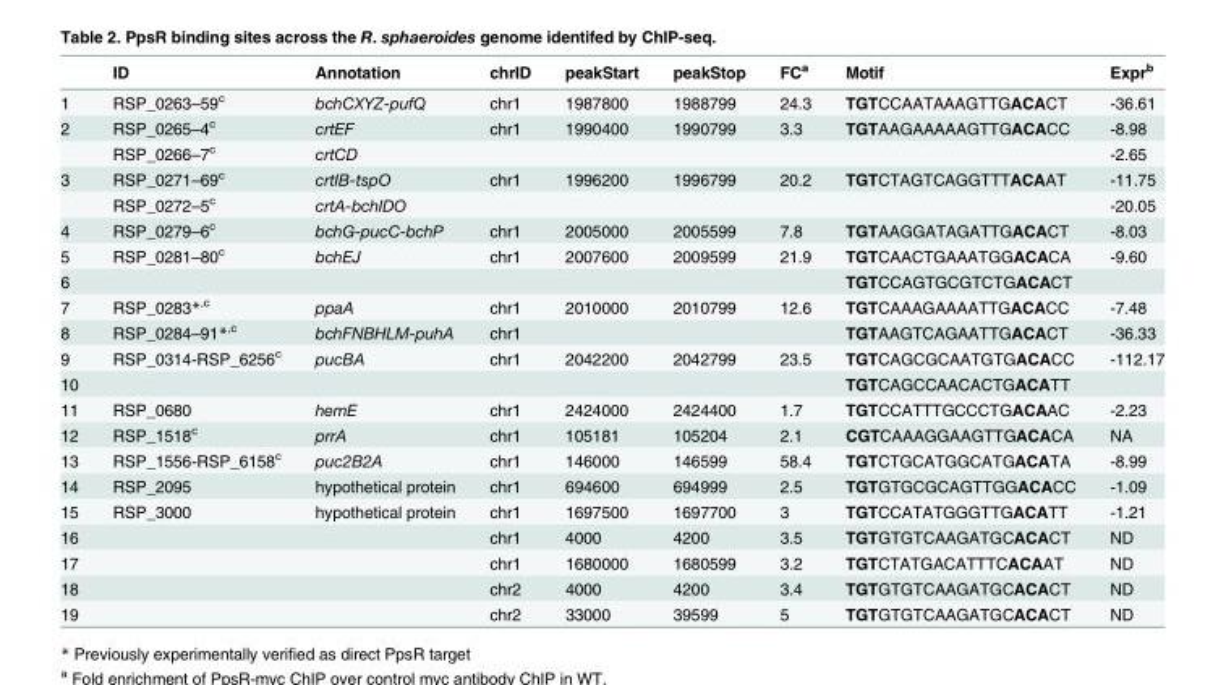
<table><thead><tr><td></td><td>ID</td><td>Annotation</td><td>chrID</td><td>peakStart</td><td>peakStop</td><td>FC<sup>a</sup></td><td>Motif</td><td>Expr<sup>b</sup></td></tr></thead><tbody><tr><td>1</td><td>RSP_0263–59<sup>c</sup></td><td>bchCXYZ-pufQ</td><td>chr1</td><td>1987800</td><td>1988799</td><td>24.3</td><td>TGTCCAATAAAGTTGACACT</td><td>-36.61</td></tr><tr><td rowspan="2">2</td><td>RSP_0265–4<sup>c</sup></td><td>crtEF</td><td>chr1</td><td>1990400</td><td>1990799</td><td>3.3</td><td>TGTAAGAAAAAGTTGACACC</td><td>-8.98</td></tr><tr><td>RSP_0266–7<sup>c</sup></td><td>crtCD</td><td></td><td></td><td></td><td></td><td></td><td>-2.65</td></tr><tr><td rowspan="2">3</td><td>RSP_0271–69<sup>c</sup></td><td>crtIB-tspO</td><td>chr1</td><td>1996200</td><td>1996799</td><td>20.2</td><td>TGTCTAGTCAGGTTTACAAT</td><td>-11.75</td></tr><tr><td>RSP_0272–5<sup>c</sup></td><td>crtA-bchIDO</td><td></td><td></td><td></td><td></td><td></td><td>-20.05</td></tr><tr><td>4</td><td>RSP_0279–6<sup>c</sup></td><td>bchG-pucC-bchP</td><td>chr1</td><td>2005000</td><td>2005599</td><td>7.8</td><td>TGTAAGGATAGATTGACACT</td><td>-8.03</td></tr><tr><td>5</td><td>RSP_0281–80<sup>c</sup></td><td>bchEJ</td><td>chr1</td><td>2007600</td><td>2009599</td><td>21.9</td><td>TGTCAACTGAAATGGACACA</td><td>-9.60</td></tr><tr><td>6</td><td></td><td></td><td></td><td></td><td></td><td></td><td>TGTCCAGTGCGTCTGACACT</td><td></td></tr><tr><td>7</td><td>RSP_0283*<sup>,c</sup></td><td>ppaA</td><td>chr1</td><td>2010000</td><td>2010799</td><td>12.6</td><td>TGTCAAAGAAAATTGACACC</td><td>-7.48</td></tr><tr><td>8</td><td>RSP_0284–91*<sup>,c</sup></td><td>bchFNBHLM-puhA</td><td>chr1</td><td></td><td></td><td></td><td>TGTAAGTCAGAATTGACACT</td><td>-36.33</td></tr><tr><td>9</td><td>RSP_0314-RSP_6256<sup>c</sup></td><td>pucBA</td><td>chr1</td><td>2042200</td><td>2042799</td><td>23.5</td><td>TGTCAGCGCAATGTGACACC</td><td>-112.17</td></tr><tr><td>10</td><td></td><td></td><td></td><td></td><td></td><td></td><td>TGTCAGCCAACACTGACATT</td><td></td></tr><tr><td>11</td><td>RSP_0680</td><td>hemE</td><td>chr1</td><td>2424000</td><td>2424400</td><td>1.7</td><td>TGTCCATTTGCCCTGACAAC</td><td>-2.23</td></tr><tr><td>12</td><td>RSP_1518<sup>c</sup></td><td>prrA</td><td>chr1</td><td>105181</td><td>105204</td><td>2.1</td><td>CGTCAAAGGAAGTTGACACA</td><td>NA</td></tr><tr><td>13</td><td>RSP_1556-RSP_6158<sup>c</sup></td><td>puc2B2A</td><td>chr1</td><td>146000</td><td>146599</td><td>58.4</td><td>TGTCTGCATGGCATGACATA</td><td>-8.99</td></tr><tr><td>14</td><td>RSP_2095</td><td>hypothetical protein</td><td>chr1</td><td>694600</td><td>694999</td><td>2.5</td><td>TGTGTGCGCAGTTGGACACC</td><td>-1.09</td></tr><tr><td>15</td><td>RSP_3000</td><td>hypothetical protein</td><td>chr1</td><td>1697500</td><td>1697700</td><td>3</td><td>TGTCCATATGGGTTGACATT</td><td>-1.21</td></tr><tr><td>16</td><td></td><td></td><td>chr1</td><td>4000</td><td>4200</td><td>3.5</td><td>TGTGTGTCAAGATGCACACT</td><td>ND</td></tr><tr><td>17</td><td></td><td></td><td>chr1</td><td>1680000</td><td>1680599</td><td>3.2</td><td>TGTCTATGACATTTCACAAT</td><td>ND</td></tr><tr><td>18</td><td></td><td></td><td>chr2</td><td>4000</td><td>4200</td><td>3.4</td><td>TGTGTGTCAAGATGCACACT</td><td>ND</td></tr><tr><td>19</td><td></td><td></td><td>chr2</td><td>33000</td><td>39599</td><td>5</td><td>TGTGTGTCAAGATGCACACT</td><td>ND</td></tr></tbody></table>